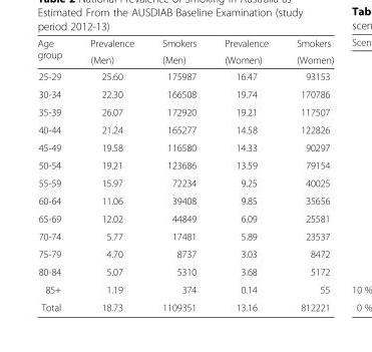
<table><thead><tr><td rowspan="2">Age group</td><td rowspan="2">Prevalence (Men)</td><td rowspan="2">Smokers (Men)</td><td rowspan="2">Prevalence (Women)</td><td rowspan="2">Smokers (Women)</td></tr><tr></tr></thead><tbody><tr><td>25-29</td><td>25.60</td><td>175987</td><td>16.47</td><td>93153</td></tr><tr><td>30-34</td><td>22.30</td><td>166508</td><td>19.74</td><td>170786</td></tr><tr><td>35-39</td><td>26.07</td><td>172920</td><td>19.21</td><td>117507</td></tr><tr><td>40-44</td><td>21.24</td><td>165277</td><td>14.58</td><td>122826</td></tr><tr><td>45-49</td><td>19.58</td><td>116580</td><td>14.33</td><td>90297</td></tr><tr><td>50-54</td><td>19.21</td><td>123686</td><td>13.59</td><td>79154</td></tr><tr><td>55-59</td><td>15.97</td><td>72234</td><td>9.25</td><td>40025</td></tr><tr><td>60-64</td><td>11.06</td><td>39408</td><td>9.85</td><td>35656</td></tr><tr><td>65-69</td><td>12.02</td><td>44849</td><td>6.09</td><td>25581</td></tr><tr><td>70-74</td><td>5.77</td><td>17481</td><td>5.89</td><td>23537</td></tr><tr><td>75-79</td><td>4.70</td><td>8737</td><td>3.03</td><td>8472</td></tr><tr><td>80-84</td><td>5.07</td><td>5310</td><td>3.68</td><td>5172</td></tr><tr><td>85+</td><td>1.19</td><td>374</td><td>0.14</td><td>55</td></tr><tr><td>Total</td><td>18.73</td><td>1109351</td><td>13.16</td><td>812221</td></tr></tbody></table>